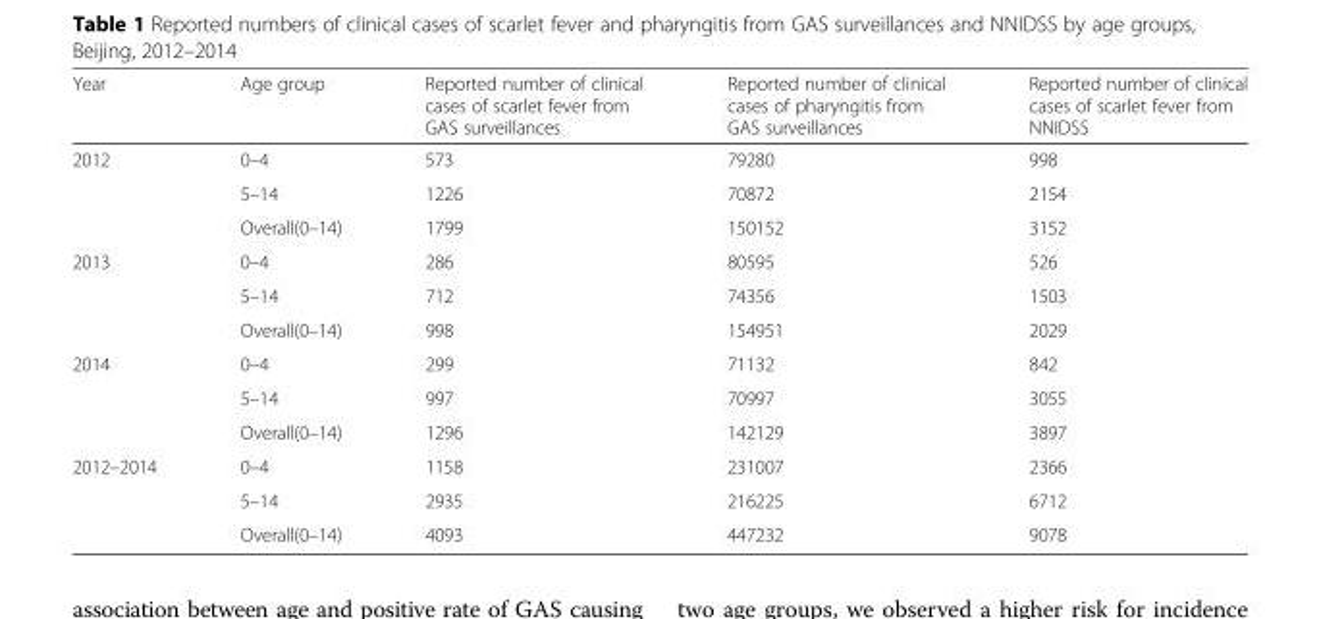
<table><thead><tr><td>Year</td><td>Age group</td><td>Reported number of clinical cases of scarlet fever from GAS surveillances</td><td>Reported number of clinical cases of pharyngitis from GAS surveillances</td><td>Reported number of clinical cases of scarlet fever from NNIDSS</td></tr></thead><tbody><tr><td rowspan="3">2012</td><td>0–4</td><td>573</td><td>79280</td><td>998</td></tr><tr><td>5–14</td><td>1226</td><td>70872</td><td>2154</td></tr><tr><td>Overall(0–14)</td><td>1799</td><td>150152</td><td>3152</td></tr><tr><td rowspan="3">2013</td><td>0–4</td><td>286</td><td>80595</td><td>526</td></tr><tr><td>5–14</td><td>712</td><td>74356</td><td>1503</td></tr><tr><td>Overall(0–14)</td><td>998</td><td>154951</td><td>2029</td></tr><tr><td rowspan="3">2014</td><td>0–4</td><td>299</td><td>71132</td><td>842</td></tr><tr><td>5–14</td><td>997</td><td>70997</td><td>3055</td></tr><tr><td>Overall(0–14)</td><td>1296</td><td>142129</td><td>3897</td></tr><tr><td rowspan="3">2012–2014</td><td>0–4</td><td>1158</td><td>231007</td><td>2366</td></tr><tr><td>5–14</td><td>2935</td><td>216225</td><td>6712</td></tr><tr><td>Overall(0–14)</td><td>4093</td><td>447232</td><td>9078</td></tr></tbody></table>